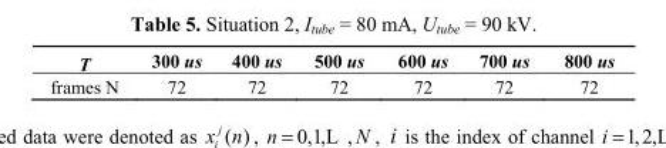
<table><thead><tr><td>T</td><td>300 us</td><td>400 us</td><td>500 us</td><td>600 us</td><td>700 us</td><td>800 us</td></tr></thead><tbody><tr><td>frames N</td><td>72</td><td>72</td><td>72</td><td>72</td><td>72</td><td>72</td></tr></tbody></table>